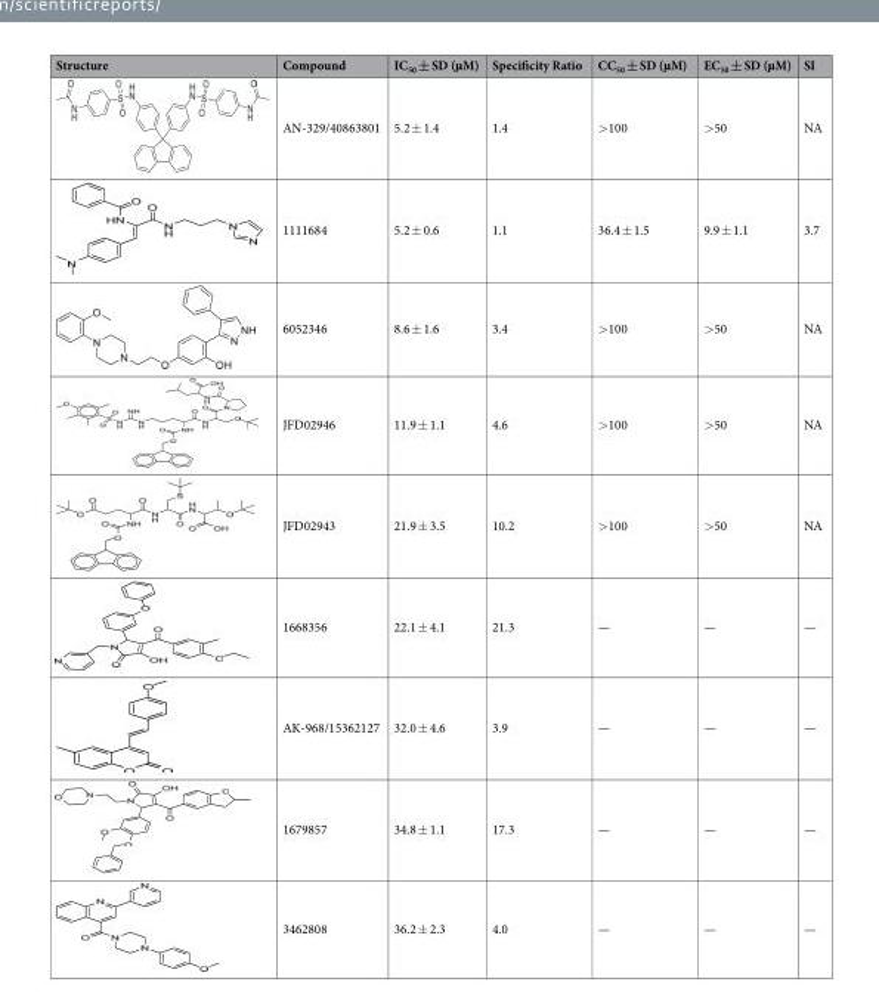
<table><thead><tr><td>Structure</td><td>Compound</td><td>IC<sub>50</sub> ± SD (µM)</td><td>Specificity Ratio</td><td>CC<sub>50</sub> ± SD (µM)</td><td>EC<sub>50</sub> ± SD (µM)</td><td>SI</td></tr></thead><tbody><tr><td></td><td>AN-329/40863801</td><td>5.2 ± 1.4</td><td>1.4</td><td>&gt;100</td><td>&gt;50</td><td>NA</td></tr><tr><td></td><td>1111684</td><td>5.2 ± 0.6</td><td>1.1</td><td>36.4 ± 1.5</td><td>9.9 ± 1.1</td><td>3.7</td></tr><tr><td></td><td>6052346</td><td>8.6 ± 1.6</td><td>3.4</td><td>&gt;100</td><td>&gt;50</td><td>NA</td></tr><tr><td></td><td>JFD02946</td><td>11.9 ± 1.1</td><td>4.6</td><td>&gt;100</td><td>&gt;50</td><td>NA</td></tr><tr><td></td><td>JFD02943</td><td>21.9 ± 3.5</td><td>10.2</td><td>&gt;100</td><td>&gt;50</td><td>NA</td></tr><tr><td></td><td>1668356</td><td>22.1 ± 4.1</td><td>21.3</td><td>—</td><td>—</td><td>—</td></tr><tr><td></td><td>AK-968/15362127</td><td>32.0 ± 4.6</td><td>3.9</td><td>—</td><td>—</td><td>—</td></tr><tr><td></td><td>1679857</td><td>34.8 ± 1.1</td><td>17.3</td><td>—</td><td>—</td><td>—</td></tr><tr><td></td><td>3462808</td><td>36.2 ± 2.3</td><td>4.0</td><td>—</td><td>—</td><td>—</td></tr></tbody></table>